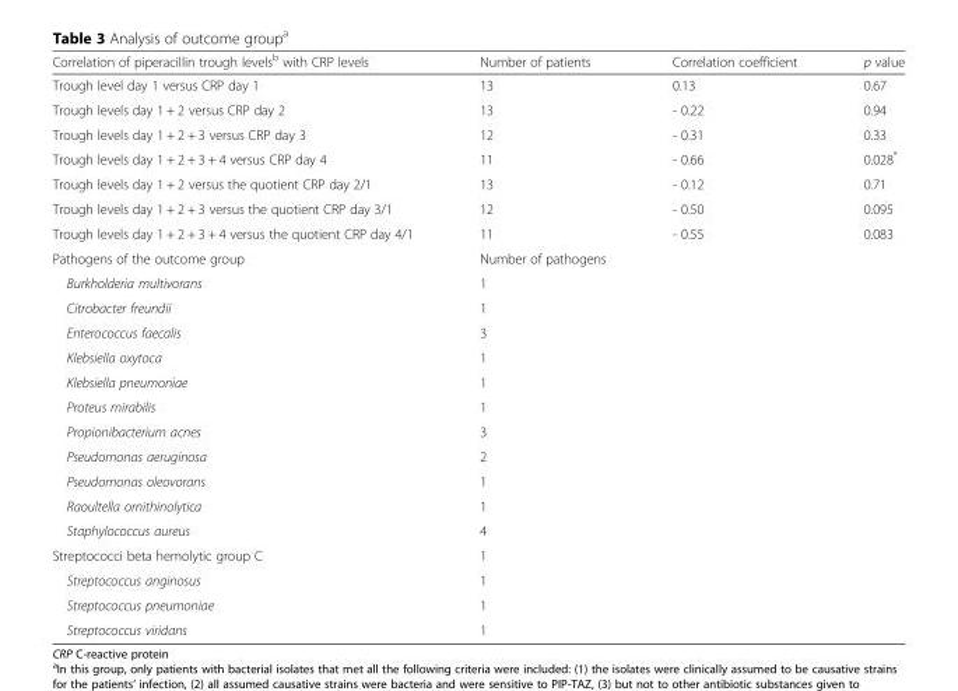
<table><thead><tr><td>Correlation of piperacillin trough levels<sup>b</sup> with CRP levels</td><td>Number of patients</td><td>Correlation coefficient</td><td>p value</td></tr></thead><tbody><tr><td>Trough level day 1 versus CRP day 1</td><td>13</td><td>0.13</td><td>0.67</td></tr><tr><td>Trough levels day 1 + 2 versus CRP day 2</td><td>13</td><td>- 0.22</td><td>0.94</td></tr><tr><td>Trough levels day 1 + 2 + 3 versus CRP day 3</td><td>12</td><td>- 0.31</td><td>0.33</td></tr><tr><td>Trough levels day 1 + 2 + 3 + 4 versus CRP day 4</td><td>11</td><td>- 0.66</td><td>0.028*</td></tr><tr><td>Trough levels day 1 + 2 versus the quotient CRP day 2/1</td><td>13</td><td>- 0.12</td><td>0.71</td></tr><tr><td>Trough levels day 1 + 2 + 3 versus the quotient CRP day 3/1</td><td>12</td><td>- 0.50</td><td>0.095</td></tr><tr><td>Trough levels day 1 + 2 + 3 + 4 versus the quotient CRP day 4/1</td><td>11</td><td>- 0.55</td><td>0.083</td></tr><tr><td>Pathogens of the outcome group</td><td>Number of pathogens</td><td></td><td></td></tr><tr><td>Burkholderia multivorans</td><td>1</td><td></td><td></td></tr><tr><td>Citrobacter freundii</td><td>1</td><td></td><td></td></tr><tr><td>Enterococcus faecalis</td><td>3</td><td></td><td></td></tr><tr><td>Klebsiella oxytoca</td><td>1</td><td></td><td></td></tr><tr><td>Klebsiella pneumoniae</td><td>1</td><td></td><td></td></tr><tr><td>Proteus mirabilis</td><td>1</td><td></td><td></td></tr><tr><td>Propionibacterium acnes</td><td>3</td><td></td><td></td></tr><tr><td>Pseudomonas aeruginosa</td><td>2</td><td></td><td></td></tr><tr><td>Pseudomonas oleovorans</td><td>1</td><td></td><td></td></tr><tr><td>Raoultella ornithinolytica</td><td>1</td><td></td><td></td></tr><tr><td>Staphylococcus aureus</td><td>4</td><td></td><td></td></tr><tr><td>Streptococci beta hemolytic group C</td><td>1</td><td></td><td></td></tr><tr><td>Streptococcus anginosus</td><td>1</td><td></td><td></td></tr><tr><td>Streptococcus pneumoniae</td><td>1</td><td></td><td></td></tr><tr><td>Streptococcus viridans</td><td>1</td><td></td><td></td></tr></tbody></table>